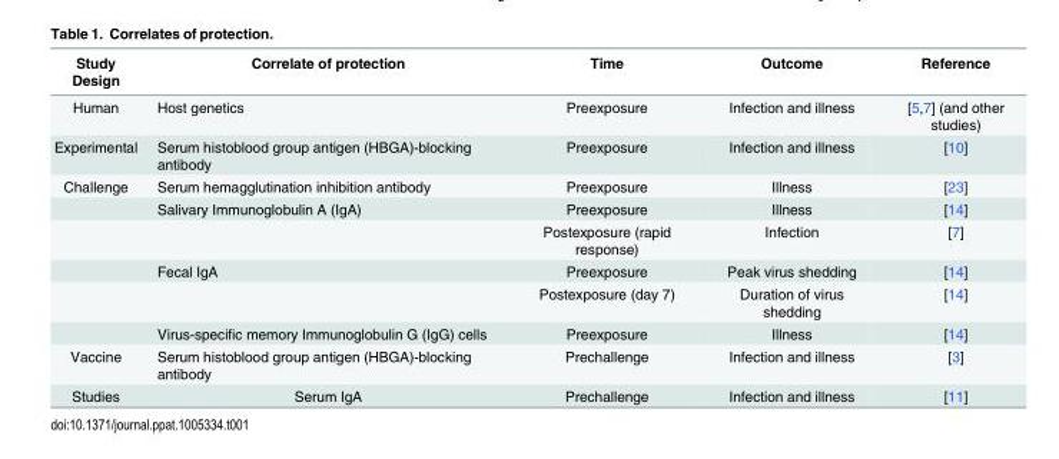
<table><thead><tr><td>Study Design</td><td>Correlate of protection</td><td>Time</td><td>Outcome</td><td>Reference</td></tr></thead><tbody><tr><td>Human</td><td>Host genetics</td><td>Preexposure</td><td>Infection and illness</td><td>[5,7] (and other studies)</td></tr><tr><td>Experimental</td><td>Serum histoblood group antigen (HBGA)-blocking antibody</td><td>Preexposure</td><td>Infection and illness</td><td>[10]</td></tr><tr><td rowspan="6">Challenge</td><td>Serum hemagglutination inhibition antibody</td><td>Preexposure</td><td>Illness</td><td>[23]</td></tr><tr><td>Salivary Immunoglobulin A (IgA)</td><td>Preexposure</td><td>Illness</td><td>[14]</td></tr><tr><td></td><td>Postexposure (rapid response)</td><td>Infection</td><td>[7]</td></tr><tr><td>Fecal IgA</td><td>Preexposure</td><td>Peak virus shedding</td><td>[14]</td></tr><tr><td></td><td>Postexposure (day 7)</td><td>Duration of virus shedding</td><td>[14]</td></tr><tr><td>Virus-specific memory Immunoglobulin G (IgG) cells</td><td>Preexposure</td><td>Illness</td><td>[14]</td></tr><tr><td>Vaccine</td><td>Serum histoblood group antigen (HBGA)-blocking antibody</td><td>Prechallenge</td><td>Infection and illness</td><td>[3]</td></tr><tr><td>Studies</td><td>Serum IgA</td><td>Prechallenge</td><td>Infection and illness</td><td>[11]</td></tr></tbody></table>